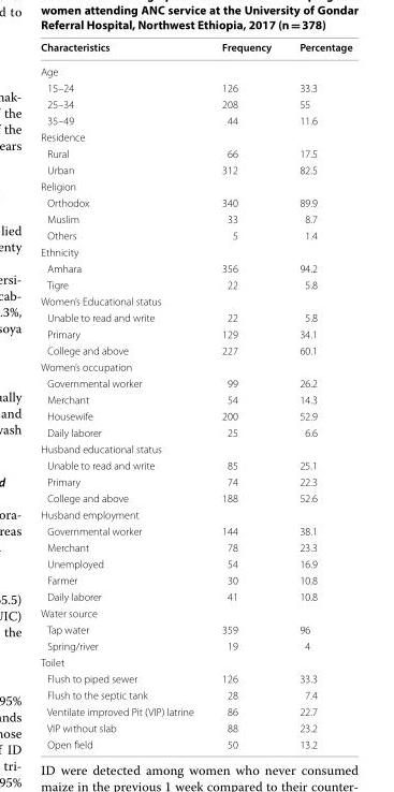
<table><thead><tr><td>Characteristics</td><td>Frequency</td><td>Percentage</td></tr></thead><tbody><tr><td colspan="3">Age</td></tr><tr><td>15–24</td><td>126</td><td>33.3</td></tr><tr><td>25–34</td><td>208</td><td>55</td></tr><tr><td>35–49</td><td>44</td><td>11.6</td></tr><tr><td colspan="3">Residence</td></tr><tr><td>Rural</td><td>66</td><td>17.5</td></tr><tr><td>Urban</td><td>312</td><td>82.5</td></tr><tr><td colspan="3">Religion</td></tr><tr><td>Orthodox</td><td>340</td><td>89.9</td></tr><tr><td>Muslim</td><td>33</td><td>8.7</td></tr><tr><td>Others</td><td>5</td><td>1.4</td></tr><tr><td colspan="3">Ethnicity</td></tr><tr><td>Amhara</td><td>356</td><td>94.2</td></tr><tr><td>Tigre</td><td>22</td><td>5.8</td></tr><tr><td colspan="3">Women’s Educational status</td></tr><tr><td>Unable to read and write</td><td>22</td><td>5.8</td></tr><tr><td>Primary</td><td>129</td><td>34.1</td></tr><tr><td>College and above</td><td>227</td><td>60.1</td></tr><tr><td colspan="3">Women’s occupation</td></tr><tr><td>Governmental worker</td><td>99</td><td>26.2</td></tr><tr><td>Merchant</td><td>54</td><td>14.3</td></tr><tr><td>Housewife</td><td>200</td><td>52.9</td></tr><tr><td>Daily laborer</td><td>25</td><td>6.6</td></tr><tr><td colspan="3">Husband educational status</td></tr><tr><td>Unable to read and write</td><td>85</td><td>25.1</td></tr><tr><td>Primary</td><td>74</td><td>22.3</td></tr><tr><td>College and above</td><td>188</td><td>52.6</td></tr><tr><td colspan="3">Husband employment</td></tr><tr><td>Governmental worker</td><td>144</td><td>38.1</td></tr><tr><td>Merchant</td><td>78</td><td>23.3</td></tr><tr><td>Unemployed</td><td>54</td><td>16.9</td></tr><tr><td>Farmer</td><td>30</td><td>10.8</td></tr><tr><td>Daily laborer</td><td>41</td><td>10.8</td></tr><tr><td colspan="3">Water source</td></tr><tr><td>Tap water</td><td>359</td><td>96</td></tr><tr><td>Spring/river</td><td>19</td><td>4</td></tr><tr><td colspan="3">Toilet</td></tr><tr><td>Flush to piped sewer</td><td>126</td><td>33.3</td></tr><tr><td>Flush to the septic tank</td><td>28</td><td>7.4</td></tr><tr><td>Ventilate improved Pit (VIP) latrine</td><td>86</td><td>22.7</td></tr><tr><td>VIP without slab</td><td>88</td><td>23.2</td></tr><tr><td>Open field</td><td>50</td><td>13.2</td></tr></tbody></table>